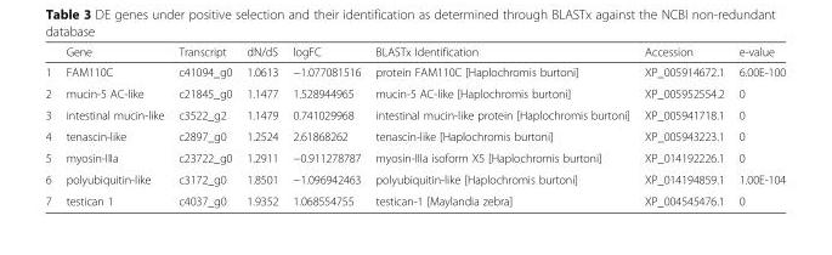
<table><thead><tr><td></td><td>Gene</td><td>Transcript</td><td>dN/dS</td><td>logFC</td><td>BLASTx Identification</td><td>Accession</td><td>e-value</td></tr></thead><tbody><tr><td>1</td><td>FAM110C</td><td>c41094_g0</td><td>1.0613</td><td>−1.077081516</td><td>protein FAM110C [Haplochromis burtoni]</td><td>XP_005914672.1</td><td>6.00E-100</td></tr><tr><td>2</td><td>mucin-5 AC-like</td><td>c21845_g0</td><td>1.1477</td><td>1.528944965</td><td>mucin-5 AC-like [Haplochromis burtoni]</td><td>XP_005952554.2</td><td>0</td></tr><tr><td>3</td><td>intestinal mucin-like</td><td>c3522_g2</td><td>1.1479</td><td>0.741029968</td><td>intestinal mucin-like protein [Haplochromis burtoni]</td><td>XP_005941718.1</td><td>0</td></tr><tr><td>4</td><td>tenascin-like</td><td>c2897_g0</td><td>1.2524</td><td>2.61868262</td><td>tenascin-like [Haplochromis burtoni]</td><td>XP_005943223.1</td><td>0</td></tr><tr><td>5</td><td>myosin-IIIa</td><td>c23722_g0</td><td>1.2911</td><td>−0.911278787</td><td>myosin-IIIa isoform X5 [Haplochromis burtoni]</td><td>XP_014192226.1</td><td>0</td></tr><tr><td>6</td><td>polyubiquitin-like</td><td>c3172_g0</td><td>1.8501</td><td>−1.096942463</td><td>polyubiquitin-like [Haplochromis burtoni]</td><td>XP_014194859.1</td><td>1.00E-104</td></tr><tr><td>7</td><td>testican 1</td><td>c4037_g0</td><td>1.9352</td><td>1.068554755</td><td>testican-1 [Maylandia zebra]</td><td>XP_004545476.1</td><td>0</td></tr></tbody></table>